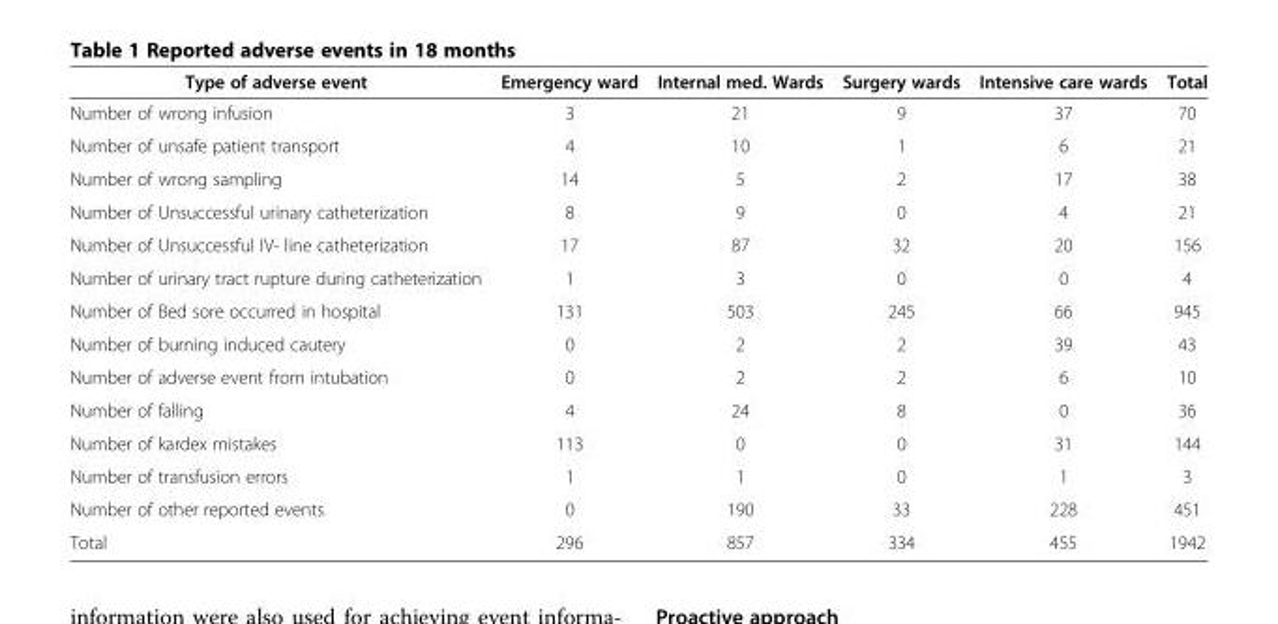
<table><thead><tr><td>Type of adverse event</td><td>Emergency ward</td><td>Internal med. Wards</td><td>Surgery wards</td><td>Intensive care wards</td><td>Total</td></tr></thead><tbody><tr><td>Number of wrong infusion</td><td>3</td><td>21</td><td>9</td><td>37</td><td>70</td></tr><tr><td>Number of unsafe patient transport</td><td>4</td><td>10</td><td>1</td><td>6</td><td>21</td></tr><tr><td>Number of wrong sampling</td><td>14</td><td>5</td><td>2</td><td>17</td><td>38</td></tr><tr><td>Number of Unsuccessful urinary catheterization</td><td>8</td><td>9</td><td>0</td><td>4</td><td>21</td></tr><tr><td>Number of Unsuccessful IV- line catheterization</td><td>17</td><td>87</td><td>32</td><td>20</td><td>156</td></tr><tr><td>Number of urinary tract rupture during catheterization</td><td>1</td><td>3</td><td>0</td><td>0</td><td>4</td></tr><tr><td>Number of Bed sore occurred in hospital</td><td>131</td><td>503</td><td>245</td><td>66</td><td>945</td></tr><tr><td>Number of burning induced cautery</td><td>0</td><td>2</td><td>2</td><td>39</td><td>43</td></tr><tr><td>Number of adverse event from intubation</td><td>0</td><td>2</td><td>2</td><td>6</td><td>10</td></tr><tr><td>Number of falling</td><td>4</td><td>24</td><td>8</td><td>0</td><td>36</td></tr><tr><td>Number of kardex mistakes</td><td>113</td><td>0</td><td>0</td><td>31</td><td>144</td></tr><tr><td>Number of transfusion errors</td><td>1</td><td>1</td><td>0</td><td>1</td><td>3</td></tr><tr><td>Number of other reported events</td><td>0</td><td>190</td><td>33</td><td>228</td><td>451</td></tr><tr><td>Total</td><td>296</td><td>857</td><td>334</td><td>455</td><td>1942</td></tr></tbody></table>